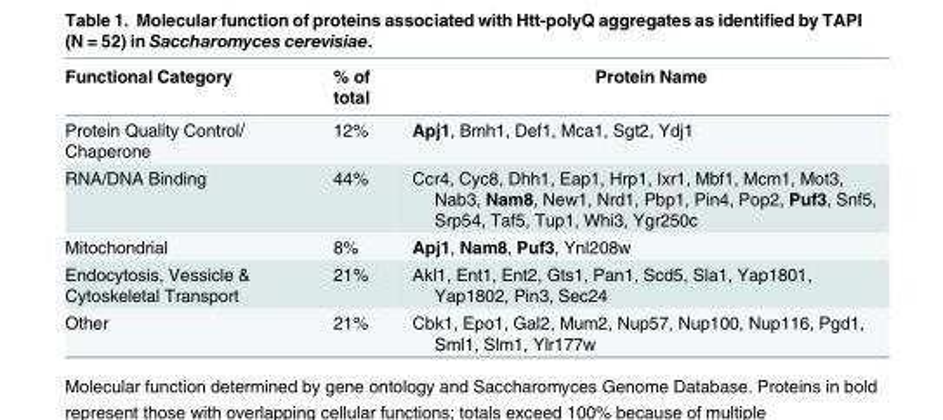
<table><thead><tr><td>Functional Category</td><td>% of total</td><td>Protein Name</td></tr></thead><tbody><tr><td>Protein Quality Control/ Chaperone</td><td>12%</td><td>Apj1, Bmh1, Def1, Mca1, Sgt2, Ydj1</td></tr><tr><td>RNA/DNA Binding</td><td>44%</td><td>Ccr4, Cyc8, Dhh1, Eap1, Hrp1, Ixr1, Mbf1, Mcm1, Mot3, Nab3, Nam8, New1, Nrd1, Pbp1, Pin4, Pop2, Puf3, Snf5, Srp54, Taf5, Tup1, Whi3, Ygr250c</td></tr><tr><td>Mitochondrial</td><td>8%</td><td>Apj1, Nam8, Puf3, Ynl208w</td></tr><tr><td>Endocytosis, Vessicle &amp; Cytoskeletal Transport</td><td>21%</td><td>Akl1, Ent1, Ent2, Gts1, Pan1, Scd5, Sla1, Yap1801, Yap1802, Pin3, Sec24</td></tr><tr><td>Other</td><td>21%</td><td>Cbk1, Epo1, Gal2, Mum2, Nup57, Nup100, Nup116, Pgd1, Sml1, Slm1, Ylr177w</td></tr></tbody></table>